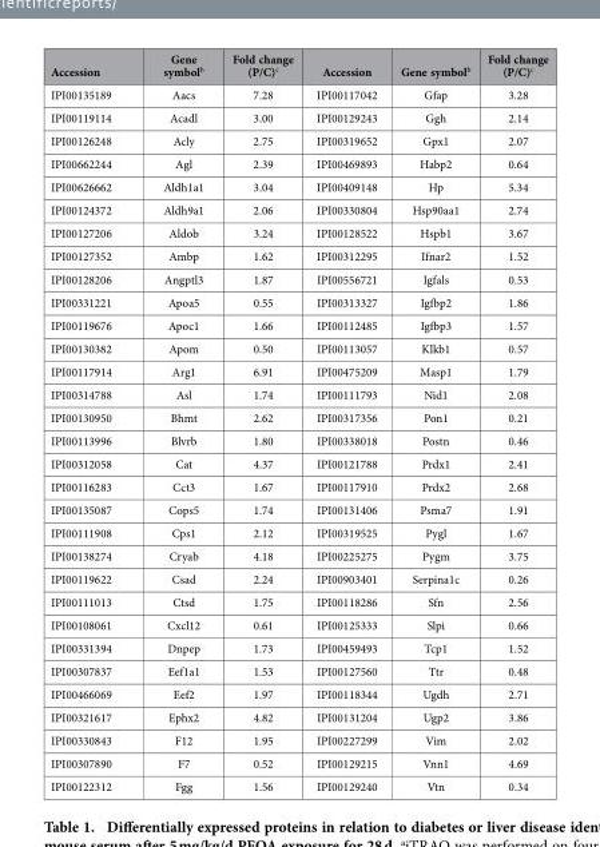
<table><thead><tr><td>Accession</td><td>Gene symbol<sup>b</sup></td><td>Fold change (P/C)<sup>c</sup></td><td>Accession</td><td>Gene symbol<sup>b</sup></td><td>Fold change (P/C)<sup>c</sup></td></tr></thead><tbody><tr><td>IPI00135189</td><td>Aacs</td><td>7.28</td><td>IPI00117042</td><td>Gfap</td><td>3.28</td></tr><tr><td>IPI00119114</td><td>Acadl</td><td>3.00</td><td>IPI00129243</td><td>Ggh</td><td>2.14</td></tr><tr><td>IPI00126248</td><td>Acly</td><td>2.75</td><td>IPI00319652</td><td>Gpx1</td><td>2.07</td></tr><tr><td>IPI00662244</td><td>Agl</td><td>2.39</td><td>IPI00469893</td><td>Habp2</td><td>0.64</td></tr><tr><td>IPI00626662</td><td>Aldh1a1</td><td>3.04</td><td>IPI00409148</td><td>Hp</td><td>5.34</td></tr><tr><td>IPI00124372</td><td>Aldh9a1</td><td>2.06</td><td>IPI00330804</td><td>Hsp90aa1</td><td>2.74</td></tr><tr><td>IPI00127206</td><td>Aldob</td><td>3.24</td><td>IPI00128522</td><td>Hspb1</td><td>3.67</td></tr><tr><td>IPI00127352</td><td>Ambp</td><td>1.62</td><td>IPI00312295</td><td>Ifnar2</td><td>1.52</td></tr><tr><td>IPI00128206</td><td>Angptl3</td><td>1.87</td><td>IPI00556721</td><td>Igfals</td><td>0.53</td></tr><tr><td>IPI00331221</td><td>Apoa5</td><td>0.55</td><td>IPI00313327</td><td>Igfbp2</td><td>1.86</td></tr><tr><td>IPI00119676</td><td>Apoc1</td><td>1.66</td><td>IPI00112485</td><td>Igfbp3</td><td>1.57</td></tr><tr><td>IPI00130382</td><td>Apom</td><td>0.50</td><td>IPI00113057</td><td>Klkb1</td><td>0.57</td></tr><tr><td>IPI00117914</td><td>Arg1</td><td>6.91</td><td>IPI00475209</td><td>Masp1</td><td>1.79</td></tr><tr><td>IPI00314788</td><td>Asl</td><td>1.74</td><td>IPI00111793</td><td>Nid1</td><td>2.08</td></tr><tr><td>IPI00130950</td><td>Bhmt</td><td>2.62</td><td>IPI00317356</td><td>Pon1</td><td>0.21</td></tr><tr><td>IPI00113996</td><td>Blvrb</td><td>1.80</td><td>IPI00338018</td><td>Postn</td><td>0.46</td></tr><tr><td>IPI00312058</td><td>Cat</td><td>4.37</td><td>IPI00121788</td><td>Prdx1</td><td>2.41</td></tr><tr><td>IPI00116283</td><td>Cct3</td><td>1.67</td><td>IPI00117910</td><td>Prdx2</td><td>2.68</td></tr><tr><td>IPI00135087</td><td>Cops5</td><td>1.74</td><td>IPI00131406</td><td>Psma7</td><td>1.91</td></tr><tr><td>IPI00111908</td><td>Cps1</td><td>2.12</td><td>IPI00319525</td><td>Pygl</td><td>1.67</td></tr><tr><td>IPI00138274</td><td>Cryab</td><td>4.18</td><td>IPI00225275</td><td>Pygm</td><td>3.75</td></tr><tr><td>IPI00119622</td><td>Csad</td><td>2.24</td><td>IPI00903401</td><td>Serpina1c</td><td>0.26</td></tr><tr><td>IPI00111013</td><td>Ctsd</td><td>1.75</td><td>IPI00118286</td><td>Sfn</td><td>2.56</td></tr><tr><td>IPI00108061</td><td>Cxcl12</td><td>0.61</td><td>IPI00125333</td><td>Slpi</td><td>0.66</td></tr><tr><td>IPI00331394</td><td>Dnpep</td><td>1.73</td><td>IPI00459493</td><td>Tcp1</td><td>1.52</td></tr><tr><td>IPI00307837</td><td>Eef1a1</td><td>1.53</td><td>IPI00127560</td><td>Ttr</td><td>0.48</td></tr><tr><td>IPI00466069</td><td>Eef2</td><td>1.97</td><td>IPI00118344</td><td>Ugdh</td><td>2.71</td></tr><tr><td>IPI00321617</td><td>Ephx2</td><td>4.82</td><td>IPI00131204</td><td>Ugp2</td><td>3.86</td></tr><tr><td>IPI00330843</td><td>F12</td><td>1.95</td><td>IPI00227299</td><td>Vim</td><td>2.02</td></tr><tr><td>IPI00307890</td><td>F7</td><td>0.52</td><td>IPI00129215</td><td>Vnn1</td><td>4.69</td></tr><tr><td>IPI00122312</td><td>Fgg</td><td>1.56</td><td>IPI00129240</td><td>Vtn</td><td>0.34</td></tr></tbody></table>